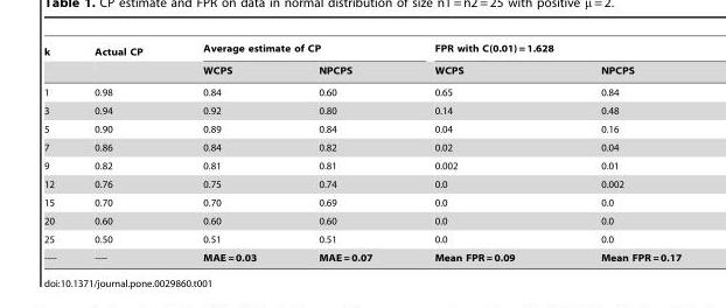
<table><thead><tr><td rowspan="2">k</td><td rowspan="2">Actual CP</td><td colspan="2">Average estimate of CP</td><td colspan="2">FPR with C(0.01) = 1.628</td></tr><tr><td>WCPS</td><td>NPCPS</td><td>WCPS</td><td>NPCPS</td></tr></thead><tbody><tr><td>1</td><td>0.98</td><td>0.84</td><td>0.60</td><td>0.65</td><td>0.84</td></tr><tr><td>3</td><td>0.94</td><td>0.92</td><td>0.80</td><td>0.14</td><td>0.48</td></tr><tr><td>5</td><td>0.90</td><td>0.89</td><td>0.84</td><td>0.04</td><td>0.16</td></tr><tr><td>7</td><td>0.86</td><td>0.84</td><td>0.82</td><td>0.02</td><td>0.04</td></tr><tr><td>9</td><td>0.82</td><td>0.81</td><td>0.81</td><td>0.002</td><td>0.01</td></tr><tr><td>12</td><td>0.76</td><td>0.75</td><td>0.74</td><td>0.0</td><td>0.002</td></tr><tr><td>15</td><td>0.70</td><td>0.70</td><td>0.69</td><td>0.0</td><td>0.0</td></tr><tr><td>20</td><td>0.60</td><td>0.60</td><td>0.60</td><td>0.0</td><td>0.0</td></tr><tr><td>25</td><td>0.50</td><td>0.51</td><td>0.51</td><td>0.0</td><td>0.0</td></tr><tr><td>----</td><td>----</td><td>MAE = 0.03</td><td>MAE = 0.07</td><td>Mean FPR = 0.09</td><td>Mean FPR = 0.17</td></tr></tbody></table>